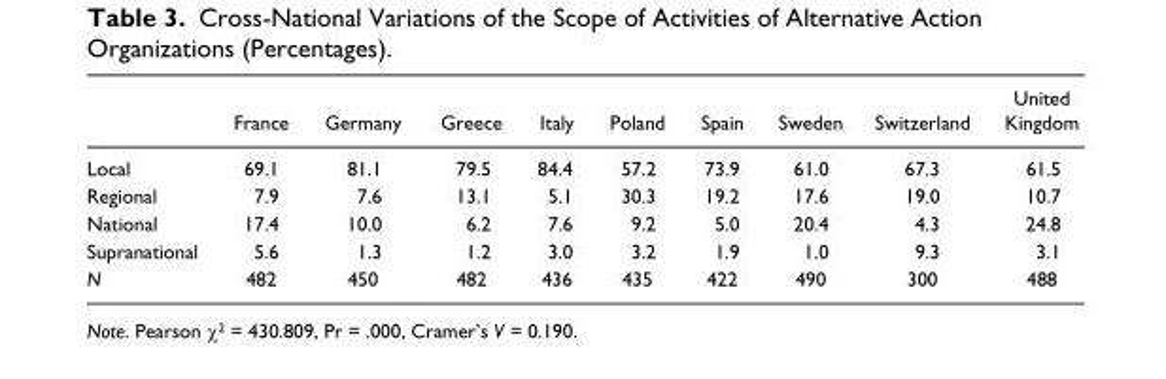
<table><thead><tr><td></td><td>France</td><td>Germany</td><td>Greece</td><td>Italy</td><td>Poland</td><td>Spain</td><td>Sweden</td><td>Switzerland</td><td>United Kingdom</td></tr></thead><tbody><tr><td>Local</td><td>69.1</td><td>81.1</td><td>79.5</td><td>84.4</td><td>57.2</td><td>73.9</td><td>61.0</td><td>67.3</td><td>61.5</td></tr><tr><td>Regional</td><td>7.9</td><td>7.6</td><td>13.1</td><td>5.1</td><td>30.3</td><td>19.2</td><td>17.6</td><td>19.0</td><td>10.7</td></tr><tr><td>National</td><td>17.4</td><td>10.0</td><td>6.2</td><td>7.6</td><td>9.2</td><td>5.0</td><td>20.4</td><td>4.3</td><td>24.8</td></tr><tr><td>Supranational</td><td>5.6</td><td>1.3</td><td>1.2</td><td>3.0</td><td>3.2</td><td>1.9</td><td>1.0</td><td>9.3</td><td>3.1</td></tr><tr><td>N</td><td>482</td><td>450</td><td>482</td><td>436</td><td>435</td><td>422</td><td>490</td><td>300</td><td>488</td></tr></tbody></table>